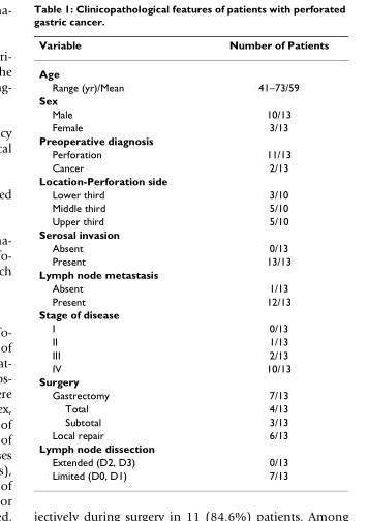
<table><thead><tr><td>Variable</td><td>Number of Patients</td></tr></thead><tbody><tr><td colspan="2">Age</td></tr><tr><td>Range (yr)/Mean</td><td>41–73/59</td></tr><tr><td colspan="2">Sex</td></tr><tr><td>Male</td><td>10/13</td></tr><tr><td>Female</td><td>3/13</td></tr><tr><td colspan="2">Preoperative diagnosis</td></tr><tr><td>Perforation</td><td>11/13</td></tr><tr><td>Cancer</td><td>2/13</td></tr><tr><td colspan="2">Location-Perforation side</td></tr><tr><td>Lower third</td><td>3/10</td></tr><tr><td>Middle third</td><td>5/10</td></tr><tr><td>Upper third</td><td>5/10</td></tr><tr><td colspan="2">Serosal invasion</td></tr><tr><td>Absent</td><td>0/13</td></tr><tr><td>Present</td><td>13/13</td></tr><tr><td colspan="2">Lymph node metastasis</td></tr><tr><td>Absent</td><td>1/13</td></tr><tr><td>Present</td><td>12/13</td></tr><tr><td colspan="2">Stage of disease</td></tr><tr><td>I</td><td>0/13</td></tr><tr><td>II</td><td>1/13</td></tr><tr><td>III</td><td>2/13</td></tr><tr><td>IV</td><td>10/13</td></tr><tr><td colspan="2">Surgery</td></tr><tr><td>Gastrectomy</td><td>7/13</td></tr><tr><td>Total</td><td>4/13</td></tr><tr><td>Subtotal</td><td>3/13</td></tr><tr><td>Local repair</td><td>6/13</td></tr><tr><td colspan="2">Lymph node dissection</td></tr><tr><td>Extended (D2, D3)</td><td>0/13</td></tr><tr><td>Limited (D0, D1)</td><td>7/13</td></tr></tbody></table>